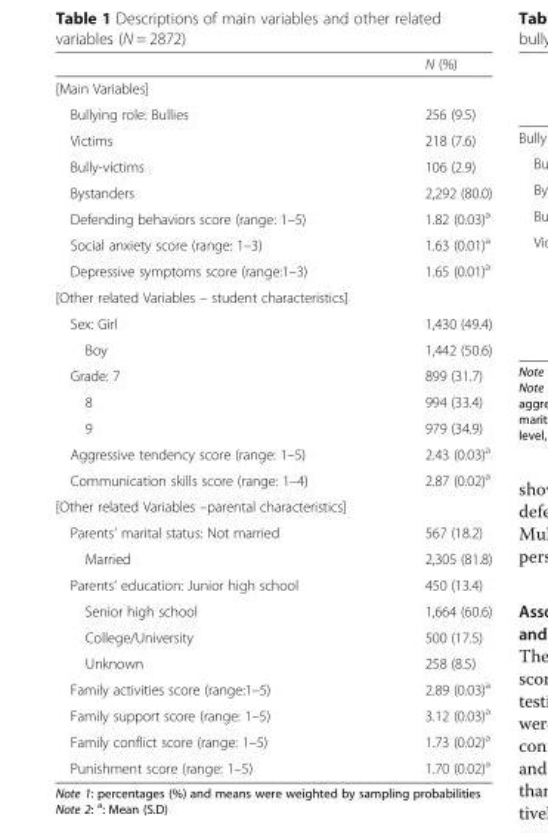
<table><thead><tr><td></td><td>N (%)</td></tr></thead><tbody><tr><td colspan="2">[Main Variables]</td></tr><tr><td>Bullying role: Bullies</td><td>256 (9.5)</td></tr><tr><td>Victims</td><td>218 (7.6)</td></tr><tr><td>Bully-victims</td><td>106 (2.9)</td></tr><tr><td>Bystanders</td><td>2,292 (80.0)</td></tr><tr><td>Defending behaviors score (range: 1–5)</td><td>1.82 (0.03)<sup>a</sup></td></tr><tr><td>Social anxiety score (range: 1–3)</td><td>1.63 (0.01)<sup>a</sup></td></tr><tr><td>Depressive symptoms score (range:1–3)</td><td>1.65 (0.01)<sup>a</sup></td></tr><tr><td colspan="2">[Other related Variables – student characteristics]</td></tr><tr><td>Sex: Girl</td><td>1,430 (49.4)</td></tr><tr><td>Boy</td><td>1,442 (50.6)</td></tr><tr><td>Grade: 7</td><td>899 (31.7)</td></tr><tr><td>8</td><td>994 (33.4)</td></tr><tr><td>9</td><td>979 (34.9)</td></tr><tr><td>Aggressive tendency score (range: 1–5)</td><td>2.43 (0.03)<sup>a</sup></td></tr><tr><td>Communication skills score (range: 1–4)</td><td>2.87 (0.02)<sup>a</sup></td></tr><tr><td colspan="2">[Other related Variables –parental characteristics]</td></tr><tr><td>Parents’ marital status: Not married</td><td>567 (18.2)</td></tr><tr><td>Married</td><td>2,305 (81.8)</td></tr><tr><td>Parents’ education: Junior high school</td><td>450 (13.4)</td></tr><tr><td>Senior high school</td><td>1,664 (60.6)</td></tr><tr><td>College/University</td><td>500 (17.5)</td></tr><tr><td>Unknown</td><td>258 (8.5)</td></tr><tr><td>Family activities score (range:1–5)</td><td>2.89 (0.03)<sup>a</sup></td></tr><tr><td>Family support score (range: 1–5)</td><td>3.12 (0.03)<sup>a</sup></td></tr><tr><td>Family conflict score (range: 1–5)</td><td>1.73 (0.02)<sup>a</sup></td></tr><tr><td>Punishment score (range: 1–5)</td><td>1.70 (0.02)<sup>a</sup></td></tr></tbody></table>